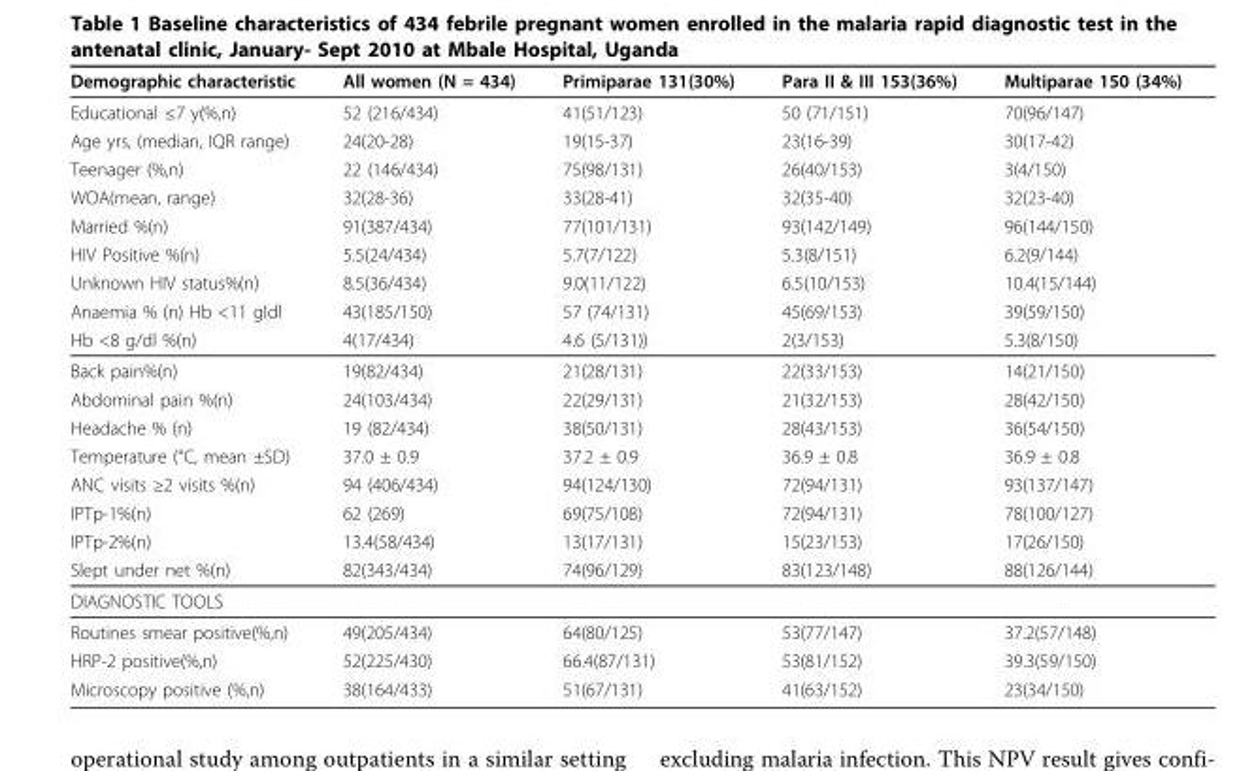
<table><thead><tr><td>Demographic characteristic</td><td>All women (N = 434)</td><td>Primiparae 131(30%)</td><td>Para II &amp; III 153(36%)</td><td>Multiparae 150 (34%)</td></tr></thead><tbody><tr><td>Educational ≤7 y(%,n)</td><td>52 (216/434)</td><td>41(51/123)</td><td>50 (71/151)</td><td>70(96/147)</td></tr><tr><td>Age yrs, (median, IQR range)</td><td>24(20-28)</td><td>19(15-37)</td><td>23(16-39)</td><td>30(17-42)</td></tr><tr><td>Teenager (%,n)</td><td>22 (146/434)</td><td>75(98/131)</td><td>26(40/153)</td><td>3(4/150)</td></tr><tr><td>WOA(mean, range)</td><td>32(28-36)</td><td>33(28-41)</td><td>32(35-40)</td><td>32(23-40)</td></tr><tr><td>Married %(n)</td><td>91(387/434)</td><td>77(101/131)</td><td>93(142/149)</td><td>96(144/150)</td></tr><tr><td>HIV Positive %(n)</td><td>5.5(24/434)</td><td>5.7(7/122)</td><td>5.3(8/151)</td><td>6.2(9/144)</td></tr><tr><td>Unknown HIV status%(n)</td><td>8.5(36/434)</td><td>9.0(11/122)</td><td>6.5(10/153)</td><td>10.4(15/144)</td></tr><tr><td>Anaemia % (n) Hb &lt;11 gldl</td><td>43(185/150)</td><td>57 (74/131)</td><td>45(69/153)</td><td>39(59/150)</td></tr><tr><td>Hb &lt;8 g/dl %(n)</td><td>4(17/434)</td><td>4.6 (5/131))</td><td>2(3/153)</td><td>5.3(8/150)</td></tr><tr><td>Back pain%(n)</td><td>19(82/434)</td><td>21(28/131)</td><td>22(33/153)</td><td>14(21/150)</td></tr><tr><td>Abdominal pain %(n)</td><td>24(103/434)</td><td>22(29/131)</td><td>21(32/153)</td><td>28(42/150)</td></tr><tr><td>Headache % (n)</td><td>19 (82/434)</td><td>38(50/131)</td><td>28(43/153)</td><td>36(54/150)</td></tr><tr><td>Temperature (°C, mean ±SD)</td><td>37.0 ± 0.9</td><td>37.2 ± 0.9</td><td>36.9 ± 0.8</td><td>36.9 ± 0.8</td></tr><tr><td>ANC visits ≥2 visits %(n)</td><td>94 (406/434)</td><td>94(124/130)</td><td>72(94/131)</td><td>93(137/147)</td></tr><tr><td>IPTp-1%(n)</td><td>62 (269)</td><td>69(75/108)</td><td>72(94/131)</td><td>78(100/127)</td></tr><tr><td>IPTp-2%(n)</td><td>13.4(58/434)</td><td>13(17/131)</td><td>15(23/153)</td><td>17(26/150)</td></tr><tr><td>Slept under net %(n)</td><td>82(343/434)</td><td>74(96/129)</td><td>83(123/148)</td><td>88(126/144)</td></tr><tr><td colspan="5">DIAGNOSTIC TOOLS</td></tr><tr><td>Routines smear positive(%,n)</td><td>49(205/434)</td><td>64(80/125)</td><td>53(77/147)</td><td>37.2(57/148)</td></tr><tr><td>HRP-2 positive(%,n)</td><td>52(225/430)</td><td>66.4(87/131)</td><td>53(81/152)</td><td>39.3(59/150)</td></tr><tr><td>Microscopy positive (%,n)</td><td>38(164/433)</td><td>51(67/131)</td><td>41(63/152)</td><td>23(34/150)</td></tr></tbody></table>